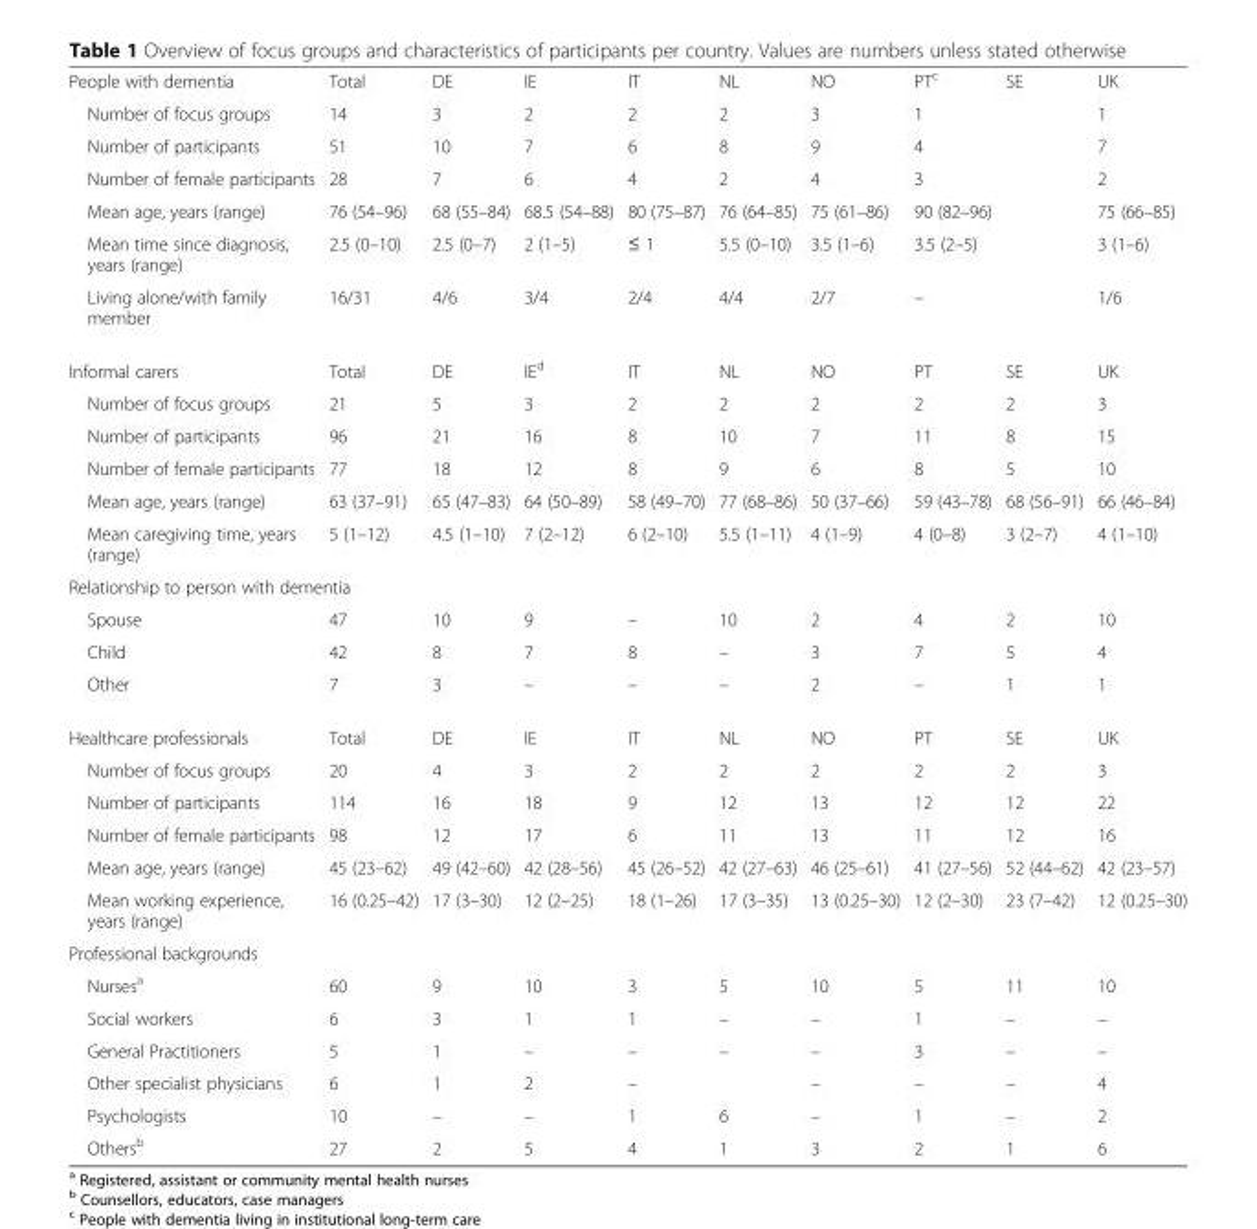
<table><tbody><tr><td>People with dementia</td><td>Total</td><td>DE</td><td>IE</td><td>IT</td><td>NL</td><td>NO</td><td>PT<sup>c</sup></td><td>SE</td><td>UK</td></tr><tr><td>Number of focus groups</td><td>14</td><td>3</td><td>2</td><td>2</td><td>2</td><td>3</td><td>1</td><td></td><td>1</td></tr><tr><td>Number of participants</td><td>51</td><td>10</td><td>7</td><td>6</td><td>8</td><td>9</td><td>4</td><td></td><td>7</td></tr><tr><td>Number of female participants</td><td>28</td><td>7</td><td>6</td><td>4</td><td>2</td><td>4</td><td>3</td><td></td><td>2</td></tr><tr><td>Mean age, years (range)</td><td>76 (54–96)</td><td>68 (55–84)</td><td>68.5 (54–88)</td><td>80 (75–87)</td><td>76 (64–85)</td><td>75 (61–86)</td><td>90 (82–96)</td><td></td><td>75 (66–85)</td></tr><tr><td>Mean time since diagnosis, years (range)</td><td>2.5 (0–10)</td><td>2.5 (0–7)</td><td>2 (1–5)</td><td>≤ 1</td><td>5.5 (0–10)</td><td>3.5 (1–6)</td><td>3.5 (2–5)</td><td></td><td>3 (1–6)</td></tr><tr><td>Living alone/with family member</td><td>16/31</td><td>4/6</td><td>3/4</td><td>2/4</td><td>4/4</td><td>2/7</td><td>–</td><td></td><td>1/6</td></tr><tr><td>Informal carers</td><td>Total</td><td>DE</td><td>IE<sup>d</sup></td><td>IT</td><td>NL</td><td>NO</td><td>PT</td><td>SE</td><td>UK</td></tr><tr><td>Number of focus groups</td><td>21</td><td>5</td><td>3</td><td>2</td><td>2</td><td>2</td><td>2</td><td>2</td><td>3</td></tr><tr><td>Number of participants</td><td>96</td><td>21</td><td>16</td><td>8</td><td>10</td><td>7</td><td>11</td><td>8</td><td>15</td></tr><tr><td>Number of female participants</td><td>77</td><td>18</td><td>12</td><td>8</td><td>9</td><td>6</td><td>8</td><td>5</td><td>10</td></tr><tr><td>Mean age, years (range)</td><td>63 (37–91)</td><td>65 (47–83)</td><td>64 (50–89)</td><td>58 (49–70)</td><td>77 (68–86)</td><td>50 (37–66)</td><td>59 (43–78)</td><td>68 (56–91)</td><td>66 (46–84)</td></tr><tr><td>Mean caregiving time, years (range)</td><td>5 (1–12)</td><td>4.5 (1–10)</td><td>7 (2–12)</td><td>6 (2–10)</td><td>5.5 (1–11)</td><td>4 (1–9)</td><td>4 (0–8)</td><td>3 (2–7)</td><td>4 (1–10)</td></tr><tr><td colspan="10">Relationship to person with dementia</td></tr><tr><td>Spouse</td><td>47</td><td>10</td><td>9</td><td>–</td><td>10</td><td>2</td><td>4</td><td>2</td><td>10</td></tr><tr><td>Child</td><td>42</td><td>8</td><td>7</td><td>8</td><td>–</td><td>3</td><td>7</td><td>5</td><td>4</td></tr><tr><td>Other</td><td>7</td><td>3</td><td>–</td><td>–</td><td>–</td><td>2</td><td>–</td><td>1</td><td>1</td></tr><tr><td>Healthcare professionals</td><td>Total</td><td>DE</td><td>IE</td><td>IT</td><td>NL</td><td>NO</td><td>PT</td><td>SE</td><td>UK</td></tr><tr><td>Number of focus groups</td><td>20</td><td>4</td><td>3</td><td>2</td><td>2</td><td>2</td><td>2</td><td>2</td><td>3</td></tr><tr><td>Number of participants</td><td>114</td><td>16</td><td>18</td><td>9</td><td>12</td><td>13</td><td>12</td><td>12</td><td>22</td></tr><tr><td>Number of female participants</td><td>98</td><td>12</td><td>17</td><td>6</td><td>11</td><td>13</td><td>11</td><td>12</td><td>16</td></tr><tr><td>Mean age, years (range)</td><td>45 (23–62)</td><td>49 (42–60)</td><td>42 (28–56)</td><td>45 (26–52)</td><td>42 (27–63)</td><td>46 (25–61)</td><td>41 (27–56)</td><td>52 (44–62)</td><td>42 (23–57)</td></tr><tr><td>Mean working experience, years (range)</td><td>16 (0.25–42)</td><td>17 (3–30)</td><td>12 (2–25)</td><td>18 (1–26)</td><td>17 (3–35)</td><td>13 (0.25–30)</td><td>12 (2–30)</td><td>23 (7–42)</td><td>12 (0.25–30)</td></tr><tr><td colspan="10">Professional backgrounds</td></tr><tr><td>Nurses<sup>a</sup></td><td>60</td><td>9</td><td>10</td><td>3</td><td>5</td><td>10</td><td>5</td><td>11</td><td>10</td></tr><tr><td>Social workers</td><td>6</td><td>3</td><td>1</td><td>1</td><td>–</td><td>–</td><td>1</td><td>–</td><td>–</td></tr><tr><td>General Practitioners</td><td>5</td><td>1</td><td>–</td><td>–</td><td>–</td><td>–</td><td>3</td><td>–</td><td>–</td></tr><tr><td>Other specialist physicians</td><td>6</td><td>1</td><td>2</td><td>–</td><td></td><td>–</td><td>–</td><td>–</td><td>4</td></tr><tr><td>Psychologists</td><td>10</td><td>–</td><td>–</td><td>1</td><td>6</td><td>–</td><td>1</td><td>–</td><td>2</td></tr><tr><td>Others<sup>b</sup></td><td>27</td><td>2</td><td>5</td><td>4</td><td>1</td><td>3</td><td>2</td><td>1</td><td>6</td></tr></tbody></table>